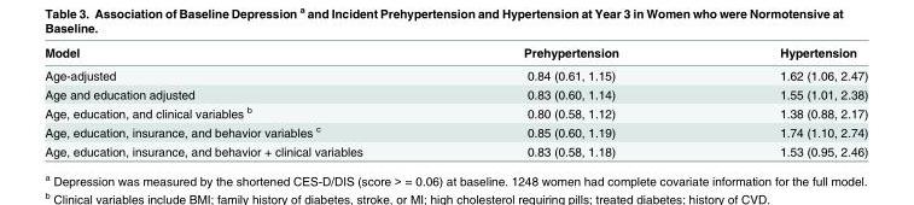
<table><thead><tr><td>Model</td><td>Prehypertension</td><td>Hypertension</td></tr></thead><tbody><tr><td>Age-adjusted</td><td>0.84 (0.61, 1.15)</td><td>1.62 (1.06, 2.47)</td></tr><tr><td>Age and education adjusted</td><td>0.83 (0.60, 1.14)</td><td>1.55 (1.01, 2.38)</td></tr><tr><td>Age, education, and clinical variables <sup>b</sup></td><td>0.80 (0.58, 1.12)</td><td>1.38 (0.88, 2.17)</td></tr><tr><td>Age, education, insurance, and behavior variables <sup>c</sup></td><td>0.85 (0.60, 1.19)</td><td>1.74 (1.10, 2.74)</td></tr><tr><td>Age, education, insurance, and behavior + clinical variables</td><td>0.83 (0.58, 1.18)</td><td>1.53 (0.95, 2.46)</td></tr></tbody></table>